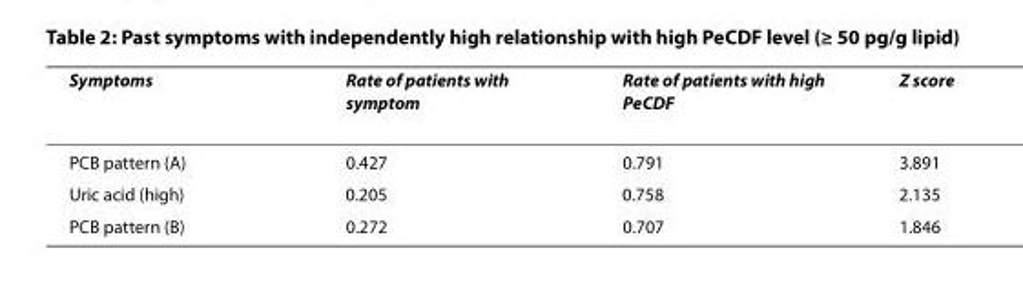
<table><thead><tr><td>Symptoms</td><td>Rate of patients with symptom</td><td>Rate of patients with high PeCDF</td><td>Z score</td></tr></thead><tbody><tr><td>PCB pattern (A)</td><td>0.427</td><td>0.791</td><td>3.891</td></tr><tr><td>Uric acid (high)</td><td>0.205</td><td>0.758</td><td>2.135</td></tr><tr><td>PCB pattern (B)</td><td>0.272</td><td>0.707</td><td>1.846</td></tr></tbody></table>